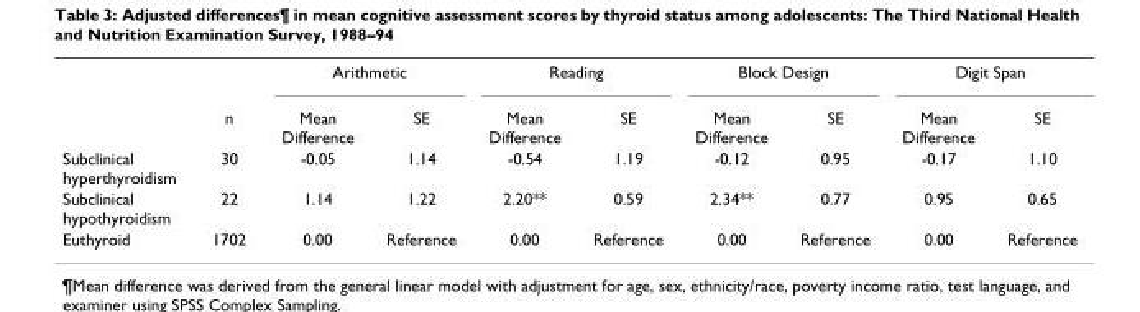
<table><thead><tr><td rowspan="2"></td><td rowspan="2">n</td><td colspan="2">Arithmetic</td><td colspan="2">Reading</td><td colspan="2">Block Design</td><td colspan="2">Digit Span</td></tr><tr><td>Mean Difference</td><td>SE</td><td>Mean Difference</td><td>SE</td><td>Mean Difference</td><td>SE</td><td>Mean Difference</td><td>SE</td></tr></thead><tbody><tr><td>Subclinical hyperthyroidism</td><td>30</td><td>-0.05</td><td>1.14</td><td>-0.54</td><td>1.19</td><td>-0.12</td><td>0.95</td><td>-0.17</td><td>1.10</td></tr><tr><td>Subclinical hypothyroidism</td><td>22</td><td>1.14</td><td>1.22</td><td>2.20**</td><td>0.59</td><td>2.34**</td><td>0.77</td><td>0.95</td><td>0.65</td></tr><tr><td>Euthyroid</td><td>1702</td><td>0.00</td><td>Reference</td><td>0.00</td><td>Reference</td><td>0.00</td><td>Reference</td><td>0.00</td><td>Reference</td></tr></tbody></table>